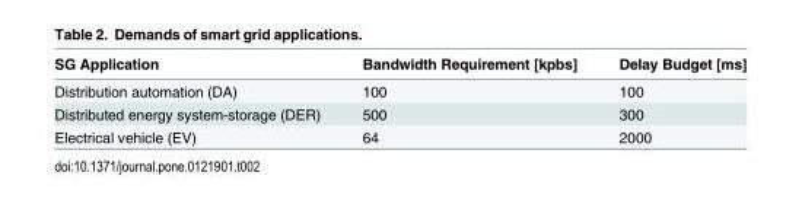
<table><thead><tr><td>SG Application</td><td>Bandwidth Requirement [kpbs]</td><td>Delay Budget [ms]</td></tr></thead><tbody><tr><td>Distribution automation (DA)</td><td>100</td><td>100</td></tr><tr><td>Distributed energy system-storage (DER)</td><td>500</td><td>300</td></tr><tr><td>Electrical vehicle (EV)</td><td>64</td><td>2000</td></tr></tbody></table>